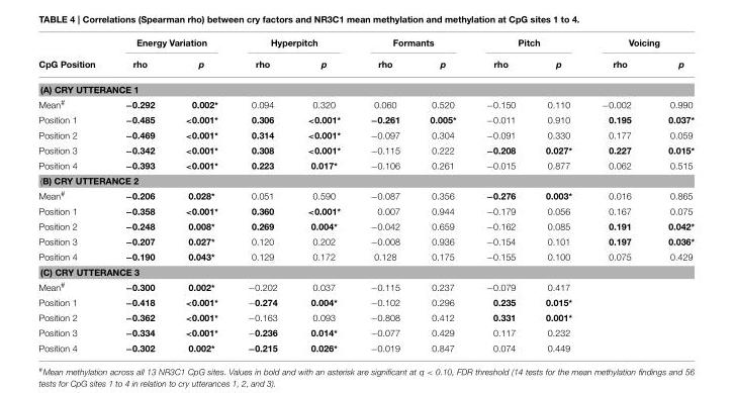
<table><thead><tr><td rowspan="2">CpG Position</td><td colspan="2">Energy Variation</td><td colspan="2">Hyperpitch</td><td colspan="2">Formants</td><td colspan="2">Pitch</td><td colspan="2">Voicing</td></tr><tr><td>rho</td><td>p</td><td>rho</td><td>p</td><td>rho</td><td>p</td><td>rho</td><td>p</td><td>rho</td><td>p</td></tr></thead><tbody><tr><td colspan="11">(A) CRY UTTERANCE 1</td></tr><tr><td>Mean<sup>#</sup></td><td>−0.292</td><td>0.002*</td><td>0.094</td><td>0.320</td><td>0.060</td><td>0.520</td><td>−0.150</td><td>0.110</td><td>−0.002</td><td>0.990</td></tr><tr><td>Position 1</td><td>−0.485</td><td>&lt;0.001*</td><td>0.306</td><td>&lt;0.001*</td><td>−0.261</td><td>0.005*</td><td>−0.011</td><td>0.910</td><td>0.195</td><td>0.037*</td></tr><tr><td>Position 2</td><td>−0.469</td><td>&lt;0.001*</td><td>0.314</td><td>&lt;0.001*</td><td>−0.097</td><td>0.304</td><td>−0.091</td><td>0.330</td><td>0.177</td><td>0.059</td></tr><tr><td>Position 3</td><td>−0.342</td><td>&lt;0.001*</td><td>0.308</td><td>&lt;0.001*</td><td>−0.115</td><td>0.222</td><td>−0.208</td><td>0.027*</td><td>0.227</td><td>0.015*</td></tr><tr><td>Position 4</td><td>−0.393</td><td>&lt;0.001*</td><td>0.223</td><td>0.017*</td><td>−0.106</td><td>0.261</td><td>−0.015</td><td>0.877</td><td>0.062</td><td>0.515</td></tr><tr><td colspan="11">(B) CRY UTTERANCE 2</td></tr><tr><td>Mean<sup>#</sup></td><td>−0.206</td><td>0.028*</td><td>0.051</td><td>0.590</td><td>−0.087</td><td>0.356</td><td>−0.276</td><td>0.003*</td><td>0.016</td><td>0.865</td></tr><tr><td>Position 1</td><td>−0.358</td><td>&lt;0.001*</td><td>0.360</td><td>&lt;0.001*</td><td>0.007</td><td>0.944</td><td>−0.179</td><td>0.056</td><td>0.167</td><td>0.075</td></tr><tr><td>Position 2</td><td>−0.248</td><td>0.008*</td><td>0.269</td><td>0.004*</td><td>−0.042</td><td>0.659</td><td>−0.162</td><td>0.085</td><td>0.191</td><td>0.042*</td></tr><tr><td>Position 3</td><td>−0.207</td><td>0.027*</td><td>0.120</td><td>0.202</td><td>−0.008</td><td>0.936</td><td>−0.154</td><td>0.101</td><td>0.197</td><td>0.036*</td></tr><tr><td>Position 4</td><td>−0.190</td><td>0.043*</td><td>0.129</td><td>0.172</td><td>0.128</td><td>0.175</td><td>−0.155</td><td>0.100</td><td>0.075</td><td>0.429</td></tr><tr><td colspan="11">(C) CRY UTTERANCE 3</td></tr><tr><td>Mean<sup>#</sup></td><td>−0.300</td><td>0.002*</td><td>−0.202</td><td>0.037</td><td>−0.115</td><td>0.237</td><td>−0.079</td><td>0.417</td><td></td><td></td></tr><tr><td>Position 1</td><td>−0.418</td><td>&lt;0.001*</td><td>−0.274</td><td>0.004*</td><td>−0.102</td><td>0.296</td><td>0.235</td><td>0.015*</td><td></td><td></td></tr><tr><td>Position 2</td><td>−0.362</td><td>&lt;0.001*</td><td>−0.163</td><td>0.093</td><td>−0.808</td><td>0.412</td><td>0.331</td><td>0.001*</td><td></td><td></td></tr><tr><td>Position 3</td><td>−0.334</td><td>&lt;0.001*</td><td>−0.236</td><td>0.014*</td><td>−0.077</td><td>0.429</td><td>0.117</td><td>0.232</td><td></td><td></td></tr><tr><td>Position 4</td><td>−0.302</td><td>0.002*</td><td>−0.215</td><td>0.026*</td><td>−0.019</td><td>0.847</td><td>0.074</td><td>0.449</td><td></td><td></td></tr></tbody></table>